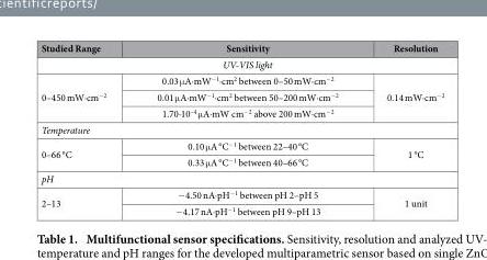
<table><thead><tr><td>Studied Range</td><td>Sensitivity</td><td>Resolution</td></tr></thead><tbody><tr><td colspan="3">UV-VIS light</td></tr><tr><td rowspan="3">0–450 mW∙cm<sup>−2</sup></td><td>0.03 μA∙mW<sup>−1</sup>∙cm<sup>2</sup> between 0–50 mW∙cm<sup>−2</sup></td><td rowspan="3">0.14 mW∙cm<sup>−2</sup></td></tr><tr><td>0.01 μA∙mW<sup>−1</sup>∙cm<sup>2</sup> between 50–200 mW∙cm<sup>−2</sup></td></tr><tr><td>1.70∙10–4 μA∙mW cm−2 above 200 mW∙cm−2</td></tr><tr><td colspan="3">Temperature</td></tr><tr><td rowspan="2">0–66 °C</td><td>0.10 μA °C<sup>−1</sup> between 22–40 °C</td><td rowspan="2">1 °C</td></tr><tr><td>0.33 μA °C<sup>−1</sup> between 40–66 °C</td></tr><tr><td colspan="3">pH</td></tr><tr><td rowspan="2">2–13</td><td>−4.50 nA∙pH<sup>−1</sup> between pH 2–pH 5</td><td rowspan="2">1 unit</td></tr><tr><td>−4.17 nA∙pH<sup>−1</sup> between pH 9–pH 13</td></tr></tbody></table>